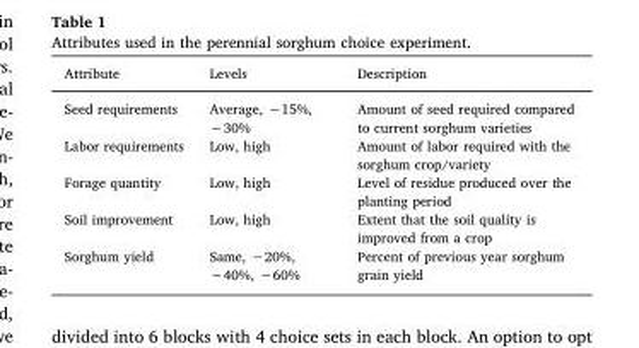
<table><thead><tr><td>Attribute</td><td>Levels</td><td>Description</td></tr></thead><tbody><tr><td>Seed requirements</td><td>Average, −15%, −30%</td><td>Amount of seed required compared to current sorghum varieties</td></tr><tr><td>Labor requirements</td><td>Low, high</td><td>Amount of labor required with the sorghum crop/variety</td></tr><tr><td>Forage quantity</td><td>Low, high</td><td>Level of residue produced over the planting period</td></tr><tr><td>Soil improvement</td><td>Low, high</td><td>Extent that the soil quality is improved from a crop</td></tr><tr><td>Sorghum yield</td><td>Same, −20%, −40%, −60%</td><td>Percent of previous year sorghum grain yield</td></tr></tbody></table>